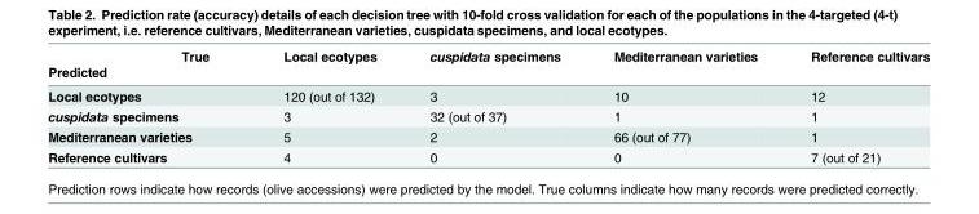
<table><thead><tr><td rowspan="2">Predicted</td><td rowspan="2">True</td><td rowspan="2">Local ecotypes</td><td rowspan="2">cuspidata specimens</td><td rowspan="2">Mediterranean varieties</td><td rowspan="2">Reference cultivars</td></tr><tr></tr></thead><tbody><tr><td colspan="2">Local ecotypes</td><td>120 (out of 132)</td><td>3</td><td>10</td><td>12</td></tr><tr><td colspan="2">cuspidata specimens</td><td>3</td><td>32 (out of 37)</td><td>1</td><td>1</td></tr><tr><td colspan="2">Mediterranean varieties</td><td>5</td><td>2</td><td>66 (out of 77)</td><td>1</td></tr><tr><td colspan="2">Reference cultivars</td><td>4</td><td>0</td><td>0</td><td>7 (out of 21)</td></tr></tbody></table>